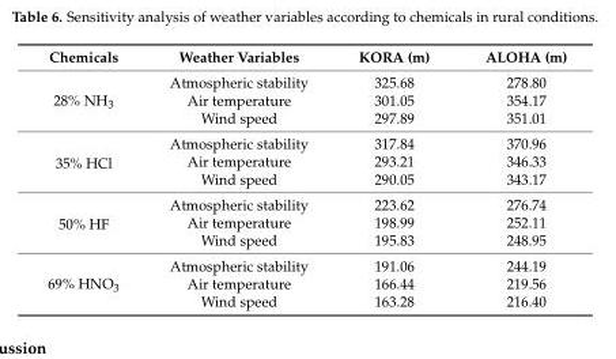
<table><thead><tr><td>Chemicals</td><td>Weather Variables</td><td>KORA (m)</td><td>ALOHA (m)</td></tr></thead><tbody><tr><td rowspan="3">28% NH<sub>3</sub></td><td>Atmospheric stability</td><td>325.68</td><td>278.80</td></tr><tr><td>Air temperature</td><td>301.05</td><td>354.17</td></tr><tr><td>Wind speed</td><td>297.89</td><td>351.01</td></tr><tr><td rowspan="3">35% HCl</td><td>Atmospheric stability</td><td>317.84</td><td>370.96</td></tr><tr><td>Air temperature</td><td>293.21</td><td>346.33</td></tr><tr><td>Wind speed</td><td>290.05</td><td>343.17</td></tr><tr><td rowspan="3">50% HF</td><td>Atmospheric stability</td><td>223.62</td><td>276.74</td></tr><tr><td>Air temperature</td><td>198.99</td><td>252.11</td></tr><tr><td>Wind speed</td><td>195.83</td><td>248.95</td></tr><tr><td rowspan="3">69% HNO<sub>3</sub></td><td>Atmospheric stability</td><td>191.06</td><td>244.19</td></tr><tr><td>Air temperature</td><td>166.44</td><td>219.56</td></tr><tr><td>Wind speed</td><td>163.28</td><td>216.40</td></tr></tbody></table>